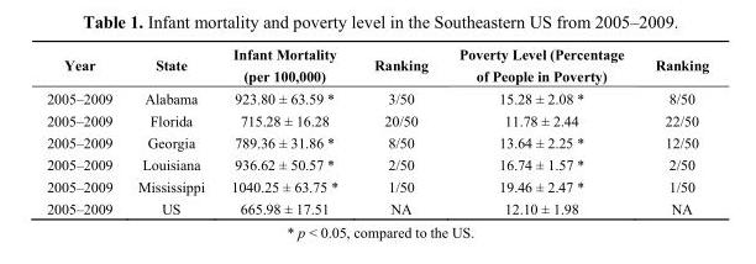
<table><thead><tr><td>Year</td><td>State</td><td>Infant Mortality (per 100,000)</td><td>Ranking</td><td>Poverty Level (Percentage of People in Poverty)</td><td>Ranking</td></tr></thead><tbody><tr><td>2005–2009</td><td>Alabama</td><td>923.80 ± 63.59 *</td><td>3/50</td><td>15.28 ± 2.08 *</td><td>8/50</td></tr><tr><td>2005–2009</td><td>Florida</td><td>715.28 ± 16.28</td><td>20/50</td><td>11.78 ± 2.44</td><td>22/50</td></tr><tr><td>2005–2009</td><td>Georgia</td><td>789.36 ± 31.86 *</td><td>8/50</td><td>13.64 ± 2.25 *</td><td>12/50</td></tr><tr><td>2005–2009</td><td>Louisiana</td><td>936.62 ± 50.57 *</td><td>2/50</td><td>16.74 ± 1.57 *</td><td>2/50</td></tr><tr><td>2005–2009</td><td>Mississippi</td><td>1040.25 ± 63.75 *</td><td>1/50</td><td>19.46 ± 2.47 *</td><td>1/50</td></tr><tr><td>2005–2009</td><td>US</td><td>665.98 ± 17.51</td><td>NA</td><td>12.10 ± 1.98</td><td>NA</td></tr></tbody></table>